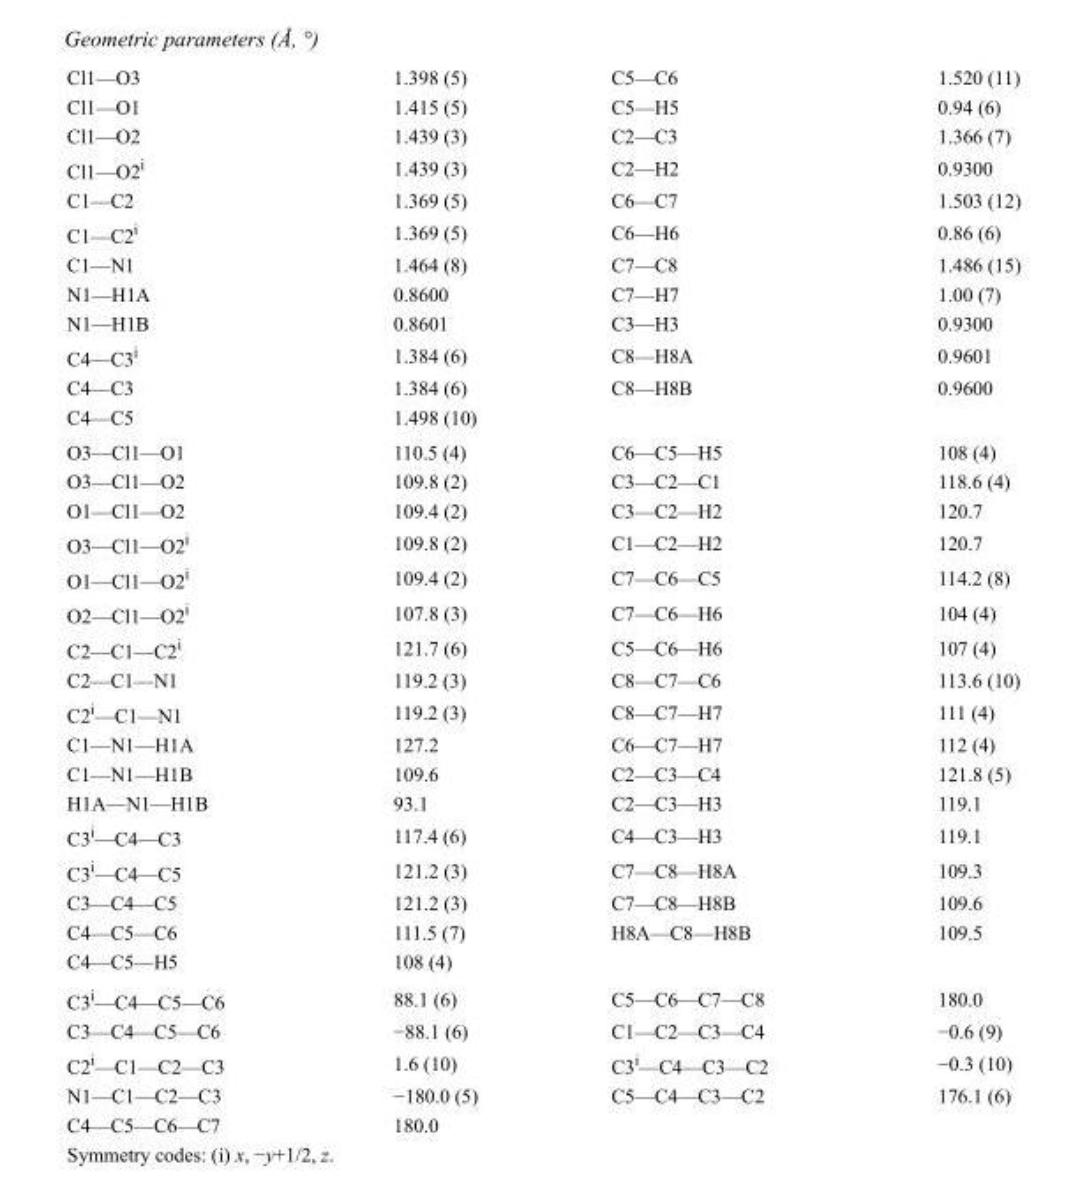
<table><tbody><tr><td>Cl1—O3</td><td>1.398 (5)</td><td>C5—C6</td><td>1.520 (11)</td></tr><tr><td>Cl1—O1</td><td>1.415 (5)</td><td>C5—H5</td><td>0.94 (6)</td></tr><tr><td>Cl1—O2</td><td>1.439 (3)</td><td>C2—C3</td><td>1.366 (7)</td></tr><tr><td>Cl1—O2<sup>i</sup></td><td>1.439 (3)</td><td>C2—H2</td><td>0.9300</td></tr><tr><td>C1—C2</td><td>1.369 (5)</td><td>C6—C7</td><td>1.503 (12)</td></tr><tr><td>C1—C2<sup>i</sup></td><td>1.369 (5)</td><td>C6—H6</td><td>0.86 (6)</td></tr><tr><td>C1—N1</td><td>1.464 (8)</td><td>C7—C8</td><td>1.486 (15)</td></tr><tr><td>N1—H1A</td><td>0.8600</td><td>C7—H7</td><td>1.00 (7)</td></tr><tr><td>N1—H1B</td><td>0.8601</td><td>C3—H3</td><td>0.9300</td></tr><tr><td>C4—C3<sup>i</sup></td><td>1.384 (6)</td><td>C8—H8A</td><td>0.9601</td></tr><tr><td>C4—C3</td><td>1.384 (6)</td><td>C8—H8B</td><td>0.9600</td></tr><tr><td>C4—C5</td><td>1.498 (10)</td><td></td><td></td></tr><tr><td>O3—Cl1—O1</td><td>110.5 (4)</td><td>C6—C5—H5</td><td>108 (4)</td></tr><tr><td>O3—Cl1—O2</td><td>109.8 (2)</td><td>C3—C2—C1</td><td>118.6 (4)</td></tr><tr><td>O1—Cl1—O2</td><td>109.4 (2)</td><td>C3—C2—H2</td><td>120.7</td></tr><tr><td>O3—Cl1—O2<sup>i</sup></td><td>109.8 (2)</td><td>C1—C2—H2</td><td>120.7</td></tr><tr><td>O1—Cl1—O2<sup>i</sup></td><td>109.4 (2)</td><td>C7—C6—C5</td><td>114.2 (8)</td></tr><tr><td>O2—Cl1—O2<sup>i</sup></td><td>107.8 (3)</td><td>C7—C6—H6</td><td>104 (4)</td></tr><tr><td>C2—C1—C2<sup>i</sup></td><td>121.7 (6)</td><td>C5—C6—H6</td><td>107 (4)</td></tr><tr><td>C2—C1—N1</td><td>119.2 (3)</td><td>C8—C7—C6</td><td>113.6 (10)</td></tr><tr><td>C2<sup>i</sup>—C1—N1</td><td>119.2 (3)</td><td>C8—C7—H7</td><td>111 (4)</td></tr><tr><td>C1—N1—H1A</td><td>127.2</td><td>C6—C7—H7</td><td>112 (4)</td></tr><tr><td>C1—N1—H1B</td><td>109.6</td><td>C2—C3—C4</td><td>121.8 (5)</td></tr><tr><td>H1A—N1—H1B</td><td>93.1</td><td>C2—C3—H3</td><td>119.1</td></tr><tr><td>C3<sup>i</sup>—C4—C3</td><td>117.4 (6)</td><td>C4—C3—H3</td><td>119.1</td></tr><tr><td>C3<sup>i</sup>—C4—C5</td><td>121.2 (3)</td><td>C7—C8—H8A</td><td>109.3</td></tr><tr><td>C3—C4—C5</td><td>121.2 (3)</td><td>C7—C8—H8B</td><td>109.6</td></tr><tr><td>C4—C5—C6</td><td>111.5 (7)</td><td>H8A—C8—H8B</td><td>109.5</td></tr><tr><td>C4—C5—H5</td><td>108 (4)</td><td></td><td></td></tr><tr><td>C3<sup>i</sup>—C4—C5—C6</td><td>88.1 (6)</td><td>C5—C6—C7—C8</td><td>180.0</td></tr><tr><td>C3—C4—C5—C6</td><td>−88.1 (6)</td><td>C1—C2—C3—C4</td><td>−0.6 (9)</td></tr><tr><td>C2<sup>i</sup>—C1—C2—C3</td><td>1.6 (10)</td><td>C3<sup>i</sup>—C4—C3—C2</td><td>−0.3 (10)</td></tr><tr><td>N1—C1—C2—C3</td><td>−180.0 (5)</td><td>C5—C4—C3—C2</td><td>176.1 (6)</td></tr><tr><td>C4—C5—C6—C7</td><td>180.0</td><td></td><td></td></tr></tbody></table>